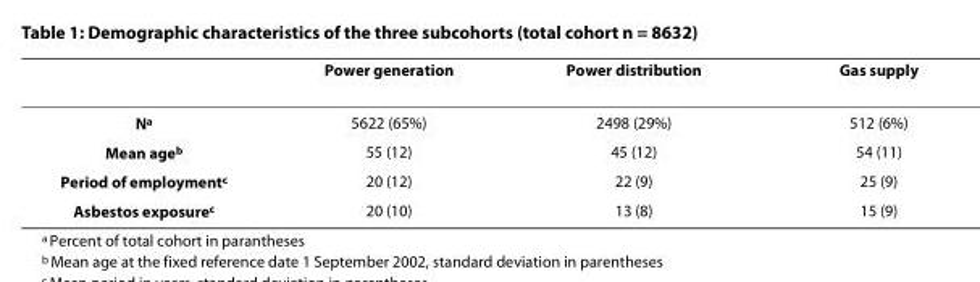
<table><thead><tr><td></td><td>Power generation</td><td>Power distribution</td><td>Gas supply</td></tr></thead><tbody><tr><td>N<sup>a</sup></td><td>5622 (65%)</td><td>2498 (29%)</td><td>512 (6%)</td></tr><tr><td>Mean age<sup>b</sup></td><td>55 (12)</td><td>45 (12)</td><td>54 (11)</td></tr><tr><td>Period of employment<sup>c</sup></td><td>20 (12)</td><td>22 (9)</td><td>25 (9)</td></tr><tr><td>Asbestos exposure<sup>c</sup></td><td>20 (10)</td><td>13 (8)</td><td>15 (9)</td></tr></tbody></table>